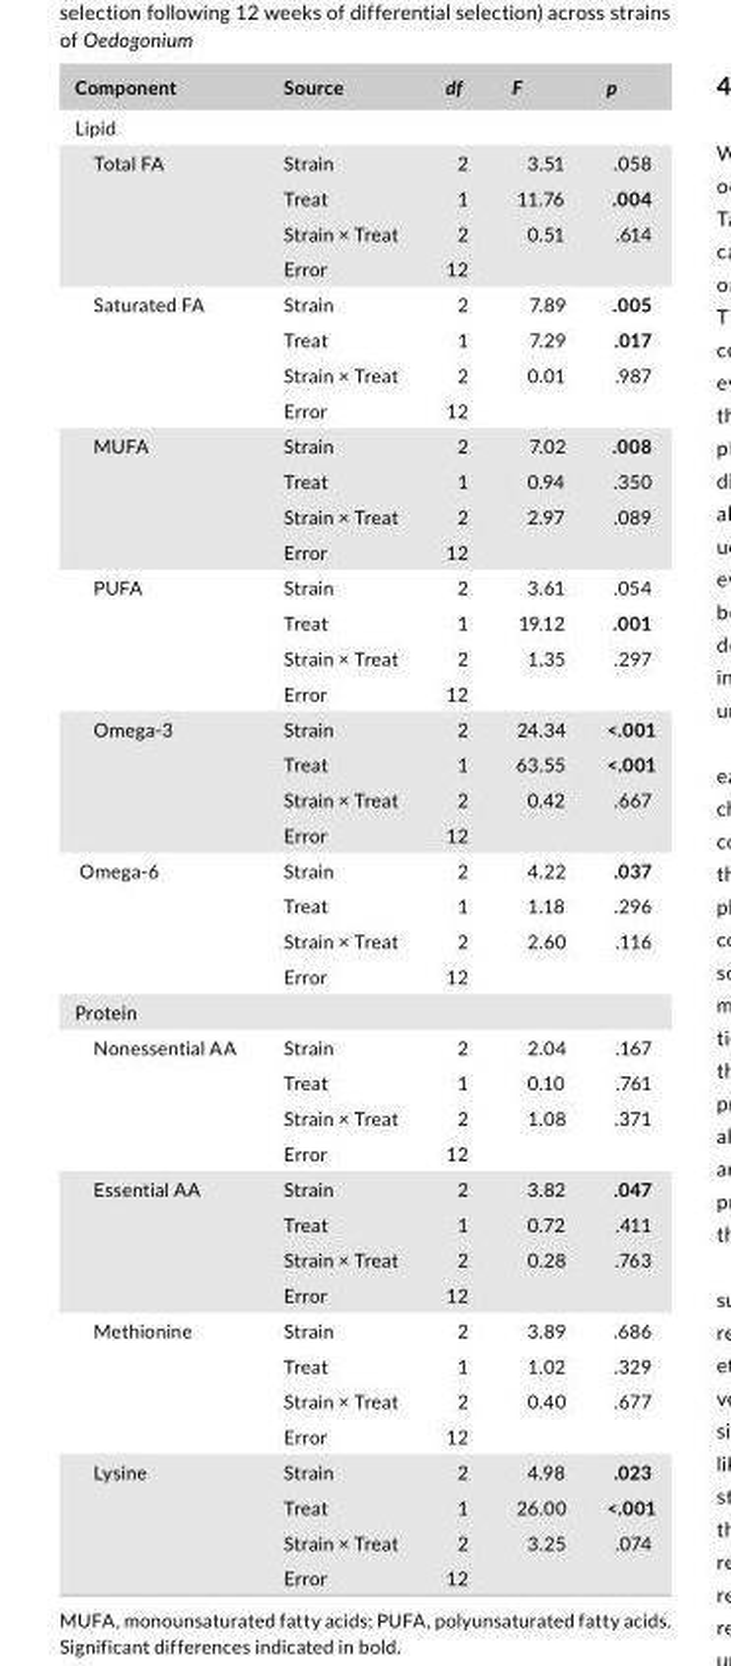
<table><thead><tr><td>Component</td><td>Source</td><td>df</td><td>F</td><td>p</td></tr></thead><tbody><tr><td colspan="5">Lipid</td></tr><tr><td rowspan="4">Total FA</td><td>Strain</td><td>2</td><td>3.51</td><td>.058</td></tr><tr><td>Treat</td><td>1</td><td>11.76</td><td>.004</td></tr><tr><td>Strain × Treat</td><td>2</td><td>0.51</td><td>.614</td></tr><tr><td>Error</td><td>12</td><td></td><td></td></tr><tr><td rowspan="4">Saturated FA</td><td>Strain</td><td>2</td><td>7.89</td><td>.005</td></tr><tr><td>Treat</td><td>1</td><td>7.29</td><td>.017</td></tr><tr><td>Strain × Treat</td><td>2</td><td>0.01</td><td>.987</td></tr><tr><td>Error</td><td>12</td><td></td><td></td></tr><tr><td rowspan="4">MUFA</td><td>Strain</td><td>2</td><td>7.02</td><td>.008</td></tr><tr><td>Treat</td><td>1</td><td>0.94</td><td>.350</td></tr><tr><td>Strain × Treat</td><td>2</td><td>2.97</td><td>.089</td></tr><tr><td>Error</td><td>12</td><td></td><td></td></tr><tr><td rowspan="4">PUFA</td><td>Strain</td><td>2</td><td>3.61</td><td>.054</td></tr><tr><td>Treat</td><td>1</td><td>19.12</td><td>.001</td></tr><tr><td>Strain × Treat</td><td>2</td><td>1.35</td><td>.297</td></tr><tr><td>Error</td><td>12</td><td></td><td></td></tr><tr><td rowspan="4">Omega- 3</td><td>Strain</td><td>2</td><td>24.34</td><td>&lt;.001</td></tr><tr><td>Treat</td><td>1</td><td>63.55</td><td>&lt;.001</td></tr><tr><td>Strain × Treat</td><td>2</td><td>0.42</td><td>.667</td></tr><tr><td>Error</td><td>12</td><td></td><td></td></tr><tr><td rowspan="4">Omega- 6</td><td>Strain</td><td>2</td><td>4.22</td><td>.037</td></tr><tr><td>Treat</td><td>1</td><td>1.18</td><td>.296</td></tr><tr><td>Strain × Treat</td><td>2</td><td>2.60</td><td>.116</td></tr><tr><td>Error</td><td>12</td><td></td><td></td></tr><tr><td colspan="5">Protein</td></tr><tr><td rowspan="4">Nonessential AA</td><td>Strain</td><td>2</td><td>2.04</td><td>.167</td></tr><tr><td>Treat</td><td>1</td><td>0.10</td><td>.761</td></tr><tr><td>Strain × Treat</td><td>2</td><td>1.08</td><td>.371</td></tr><tr><td>Error</td><td>12</td><td></td><td></td></tr><tr><td rowspan="4">Essential AA</td><td>Strain</td><td>2</td><td>3.82</td><td>.047</td></tr><tr><td>Treat</td><td>1</td><td>0.72</td><td>.411</td></tr><tr><td>Strain × Treat</td><td>2</td><td>0.28</td><td>.763</td></tr><tr><td>Error</td><td>12</td><td></td><td></td></tr><tr><td rowspan="4">Methionine</td><td>Strain</td><td>2</td><td>3.89</td><td>.686</td></tr><tr><td>Treat</td><td>1</td><td>1.02</td><td>.329</td></tr><tr><td>Strain × Treat</td><td>2</td><td>0.40</td><td>.677</td></tr><tr><td>Error</td><td>12</td><td></td><td></td></tr><tr><td rowspan="4">Lysine</td><td>Strain</td><td>2</td><td>4.98</td><td>.023</td></tr><tr><td>Treat</td><td>1</td><td>26.00</td><td>&lt;.001</td></tr><tr><td>Strain × Treat</td><td>2</td><td>3.25</td><td>.074</td></tr><tr><td>Error</td><td>12</td><td></td><td></td></tr></tbody></table>